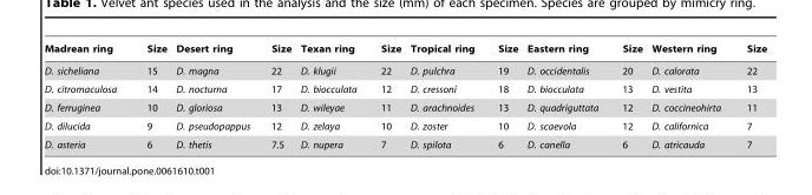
<table><thead><tr><td>Madrean ring</td><td>Size</td><td>Desert ring</td><td>Size</td><td>Texan ring</td><td>Size</td><td>Tropical ring</td><td>Size</td><td>Eastern ring</td><td>Size</td><td>Western ring</td><td>Size</td></tr></thead><tbody><tr><td>D. sicheliana</td><td>15</td><td>D. magna</td><td>22</td><td>D. klugii</td><td>22</td><td>D. pulchra</td><td>19</td><td>D. occidentalis</td><td>20</td><td>D. calorata</td><td>22</td></tr><tr><td>D. citromaculosa</td><td>14</td><td>D. nocturna</td><td>17</td><td>D. biocculata</td><td>12</td><td>D. cressoni</td><td>18</td><td>D. biocculata</td><td>13</td><td>D. vestita</td><td>13</td></tr><tr><td>D. ferruginea</td><td>10</td><td>D. gloriosa</td><td>13</td><td>D. wileyae</td><td>11</td><td>D. arachnoides</td><td>13</td><td>D. quadriguttata</td><td>12</td><td>D. coccineohirta</td><td>11</td></tr><tr><td>D. dilucida</td><td>9</td><td>D. pseudopappus</td><td>12</td><td>D. zelaya</td><td>10</td><td>D. zoster</td><td>10</td><td>D. scaevola</td><td>12</td><td>D. californica</td><td>7</td></tr><tr><td>D. asteria</td><td>6</td><td>D. thetis</td><td>7.5</td><td>D. nupera</td><td>7</td><td>D. spilota</td><td>6</td><td>D. canella</td><td>6</td><td>D. atricauda</td><td>7</td></tr></tbody></table>